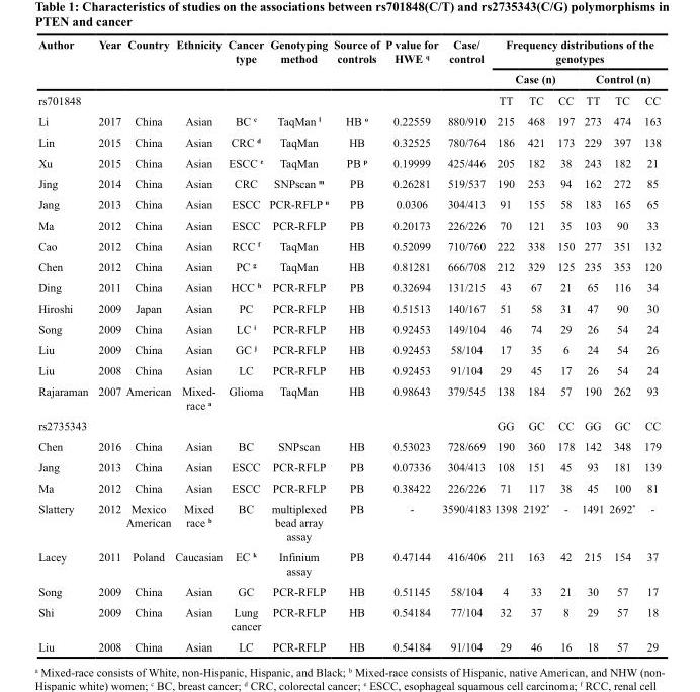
<table><thead><tr><td rowspan="3">Author rs701848</td><td rowspan="3">Year</td><td rowspan="3">Country</td><td rowspan="3">Ethnicity</td><td rowspan="3">Cancer type</td><td rowspan="3">Genotyping method</td><td rowspan="3">Source of controls</td><td rowspan="3">P value for HWE <sup>q</sup></td><td rowspan="3">Case/ control</td><td colspan="6">Frequency distributions of the genotypes</td></tr><tr><td colspan="3">Case (n)</td><td colspan="3">Control (n)</td></tr><tr><td>TT</td><td>TC</td><td>CC</td><td>TT</td><td>TC</td><td>CC</td></tr></thead><tbody><tr><td>Li</td><td>2017</td><td>China</td><td>Asian</td><td>BC <sup>c</sup></td><td>TaqMan <sup>l</sup></td><td>HB °</td><td>0.22559</td><td>880/910</td><td>215</td><td>468</td><td>197</td><td>273</td><td>474</td><td>163</td></tr><tr><td>Lin</td><td>2015</td><td>China</td><td>Asian</td><td>CRC <sup>d</sup></td><td>TaqMan</td><td>HB</td><td>0.32525</td><td>780/764</td><td>186</td><td>421</td><td>173</td><td>229</td><td>397</td><td>138</td></tr><tr><td>Xu</td><td>2015</td><td>China</td><td>Asian</td><td>ESCC <sup>e</sup></td><td>TaqMan</td><td>PB <sup>p</sup></td><td>0.19999</td><td>425/446</td><td>205</td><td>182</td><td>38</td><td>243</td><td>182</td><td>21</td></tr><tr><td>Jing</td><td>2014</td><td>China</td><td>Asian</td><td>CRC</td><td>SNPscan <sup>m</sup></td><td>PB</td><td>0.26281</td><td>519/537</td><td>190</td><td>253</td><td>94</td><td>162</td><td>272</td><td>85</td></tr><tr><td>Jang</td><td>2013</td><td>China</td><td>Asian</td><td>ESCC</td><td>PCR-RFLP <sup>n</sup></td><td>PB</td><td>0.0306</td><td>304/413</td><td>91</td><td>155</td><td>58</td><td>183</td><td>165</td><td>65</td></tr><tr><td>Ma</td><td>2012</td><td>China</td><td>Asian</td><td>ESCC</td><td>PCR-RFLP</td><td>PB</td><td>0.20173</td><td>226/226</td><td>70</td><td>121</td><td>35</td><td>103</td><td>90</td><td>33</td></tr><tr><td>Cao</td><td>2012</td><td>China</td><td>Asian</td><td>RCC <sup>f</sup></td><td>TaqMan</td><td>HB</td><td>0.52099</td><td>710/760</td><td>222</td><td>338</td><td>150</td><td>277</td><td>351</td><td>132</td></tr><tr><td>Chen</td><td>2012</td><td>China</td><td>Asian</td><td>PC <sup>g</sup></td><td>TaqMan</td><td>HB</td><td>0.81281</td><td>666/708</td><td>212</td><td>329</td><td>125</td><td>235</td><td>353</td><td>120</td></tr><tr><td>Ding</td><td>2011</td><td>China</td><td>Asian</td><td>HCC <sup>h</sup></td><td>PCR-RFLP</td><td>PB</td><td>0.32694</td><td>131/215</td><td>43</td><td>67</td><td>21</td><td>65</td><td>116</td><td>34</td></tr><tr><td>Hiroshi</td><td>2009</td><td>Japan</td><td>Asian</td><td>PC</td><td>PCR-RFLP</td><td>HB</td><td>0.51513</td><td>140/167</td><td>51</td><td>58</td><td>31</td><td>47</td><td>90</td><td>30</td></tr><tr><td>Song</td><td>2009</td><td>China</td><td>Asian</td><td>LC <sup>i</sup></td><td>PCR-RFLP</td><td>HB</td><td>0.92453</td><td>149/104</td><td>46</td><td>74</td><td>29</td><td>26</td><td>54</td><td>24</td></tr><tr><td>Liu</td><td>2009</td><td>China</td><td>Asian</td><td>GC <sup>j</sup></td><td>PCR-RFLP</td><td>HB</td><td>0.92453</td><td>58/104</td><td>17</td><td>35</td><td>6</td><td>24</td><td>54</td><td>26</td></tr><tr><td>Liu</td><td>2008</td><td>China</td><td>Asian</td><td>LC</td><td>PCR-RFLP</td><td>HB</td><td>0.92453</td><td>91/104</td><td>29</td><td>45</td><td>17</td><td>26</td><td>54</td><td>24</td></tr><tr><td>Rajaraman</td><td>2007</td><td>American</td><td>Mixed- race <sup>a</sup></td><td>Glioma</td><td>TaqMan</td><td>HB</td><td>0.98643</td><td>379/545</td><td>138</td><td>184</td><td>57</td><td>190</td><td>262</td><td>93</td></tr><tr><td>rs2735343</td><td></td><td></td><td></td><td></td><td></td><td></td><td></td><td></td><td>GG</td><td>GC</td><td>CC</td><td>GG</td><td>GC</td><td>CC</td></tr><tr><td>Chen</td><td>2016</td><td>China</td><td>Asian</td><td>BC</td><td>SNPscan</td><td>HB</td><td>0.53023</td><td>728/669</td><td>190</td><td>360</td><td>178</td><td>142</td><td>348</td><td>179</td></tr><tr><td>Jang</td><td>2013</td><td>China</td><td>Asian</td><td>ESCC</td><td>PCR-RFLP</td><td>PB</td><td>0.07336</td><td>304/413</td><td>108</td><td>151</td><td>45</td><td>93</td><td>181</td><td>139</td></tr><tr><td>Ma</td><td>2012</td><td>China</td><td>Asian</td><td>ESCC</td><td>PCR-RFLP</td><td>PB</td><td>0.38422</td><td>226/226</td><td>71</td><td>117</td><td>38</td><td>45</td><td>100</td><td>81</td></tr><tr><td>Slattery</td><td>2012</td><td>Mexico American</td><td>Mixed race <sup>b</sup></td><td>BC</td><td>multiplexed bead array assay</td><td>PB</td><td>-</td><td>3590/4183</td><td>1398</td><td>2192*</td><td>-</td><td>1491</td><td>2692*</td><td>-</td></tr><tr><td>Lacey</td><td>2011</td><td>Poland</td><td>Caucasian</td><td>EC <sup>k</sup></td><td>Infinium assay</td><td>PB</td><td>0.47144</td><td>416/406</td><td>211</td><td>163</td><td>42</td><td>215</td><td>154</td><td>37</td></tr><tr><td>Song</td><td>2009</td><td>China</td><td>Asian</td><td>GC</td><td>PCR-RFLP</td><td>HB</td><td>0.51145</td><td>58/104</td><td>4</td><td>33</td><td>21</td><td>30</td><td>57</td><td>17</td></tr><tr><td>Shi</td><td>2009</td><td>China</td><td>Asian</td><td>Lung cancer</td><td>PCR-RFLP</td><td>HB</td><td>0.54184</td><td>77/104</td><td>32</td><td>37</td><td>8</td><td>29</td><td>57</td><td>18</td></tr><tr><td>Liu</td><td>2008</td><td>China</td><td>Asian</td><td>LC</td><td>PCR-RFLP</td><td>HB</td><td>0.54184</td><td>91/104</td><td>29</td><td>46</td><td>16</td><td>18</td><td>57</td><td>29</td></tr></tbody></table>